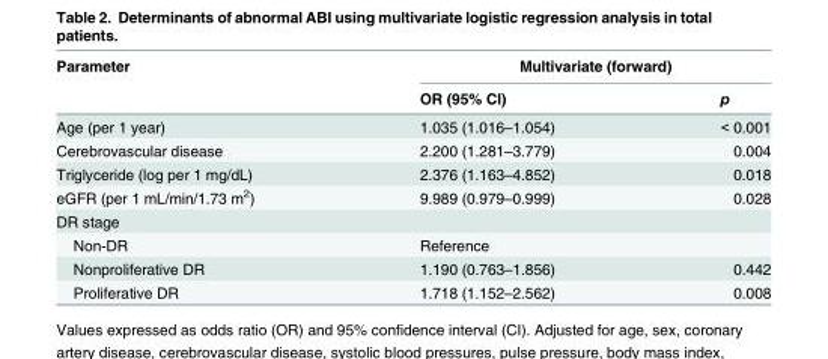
<table><thead><tr><td rowspan="2">Parameter</td><td colspan="2">Multivariate (forward)</td></tr><tr><td>OR (95% CI)</td><td>p</td></tr></thead><tbody><tr><td>Age (per 1 year)</td><td>1.035 (1.016–1.054)</td><td>&lt; 0.001</td></tr><tr><td>Cerebrovascular disease</td><td>2.200 (1.281–3.779)</td><td>0.004</td></tr><tr><td>Triglyceride (log per 1 mg/dL)</td><td>2.376 (1.163–4.852)</td><td>0.018</td></tr><tr><td>eGFR (per 1 mL/min/1.73 m<sup>2</sup>)</td><td>9.989 (0.979–0.999)</td><td>0.028</td></tr><tr><td colspan="3">DR stage</td></tr><tr><td>Non-DR</td><td>Reference</td><td></td></tr><tr><td>Nonproliferative DR</td><td>1.190 (0.763–1.856)</td><td>0.442</td></tr><tr><td>Proliferative DR</td><td>1.718 (1.152–2.562)</td><td>0.008</td></tr></tbody></table>